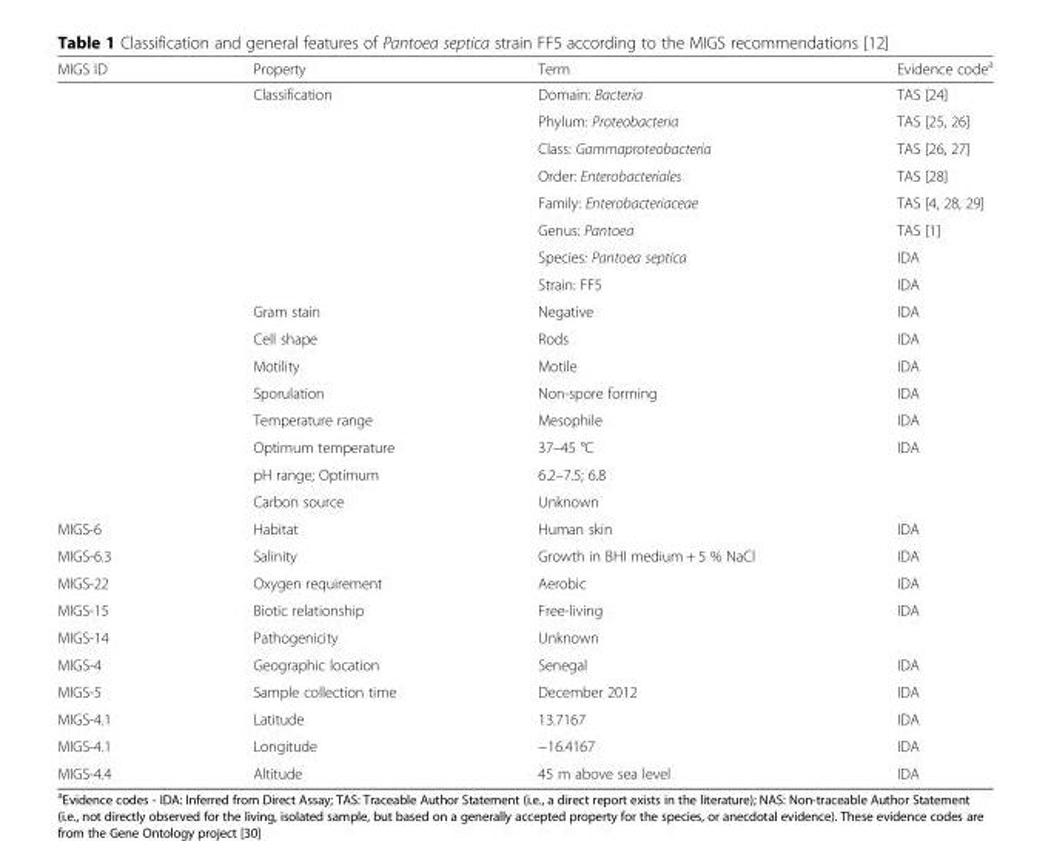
<table><thead><tr><td>MIGS ID</td><td>Property</td><td>Term</td><td>Evidence code<sup>a</sup></td></tr></thead><tbody><tr><td></td><td>Classification</td><td>Domain: Bacteria</td><td>TAS [24]</td></tr><tr><td></td><td></td><td>Phylum: Proteobacteria</td><td>TAS [25, 26]</td></tr><tr><td></td><td></td><td>Class: Gammaproteobacteria</td><td>TAS [26, 27]</td></tr><tr><td></td><td></td><td>Order: Enterobacteriales</td><td>TAS [28]</td></tr><tr><td></td><td></td><td>Family: Enterobacteriaceae</td><td>TAS [4, 28, 29]</td></tr><tr><td></td><td></td><td>Genus: Pantoea</td><td>TAS [1]</td></tr><tr><td></td><td></td><td>Species: Pantoea septica</td><td>IDA</td></tr><tr><td></td><td></td><td>Strain: FF5</td><td>IDA</td></tr><tr><td></td><td>Gram stain</td><td>Negative</td><td>IDA</td></tr><tr><td></td><td>Cell shape</td><td>Rods</td><td>IDA</td></tr><tr><td></td><td>Motility</td><td>Motile</td><td>IDA</td></tr><tr><td></td><td>Sporulation</td><td>Non-spore forming</td><td>IDA</td></tr><tr><td></td><td>Temperature range</td><td>Mesophile</td><td>IDA</td></tr><tr><td></td><td>Optimum temperature</td><td>37–45 °C</td><td>IDA</td></tr><tr><td></td><td>pH range; Optimum</td><td>6.2–7.5; 6.8</td><td></td></tr><tr><td></td><td>Carbon source</td><td>Unknown</td><td></td></tr><tr><td>MIGS-6</td><td>Habitat</td><td>Human skin</td><td>IDA</td></tr><tr><td>MIGS-6.3</td><td>Salinity</td><td>Growth in BHI medium + 5 % NaCl</td><td>IDA</td></tr><tr><td>MIGS-22</td><td>Oxygen requirement</td><td>Aerobic</td><td>IDA</td></tr><tr><td>MIGS-15</td><td>Biotic relationship</td><td>Free-living</td><td>IDA</td></tr><tr><td>MIGS-14</td><td>Pathogenicity</td><td>Unknown</td><td></td></tr><tr><td>MIGS-4</td><td>Geographic location</td><td>Senegal</td><td>IDA</td></tr><tr><td>MIGS-5</td><td>Sample collection time</td><td>December 2012</td><td>IDA</td></tr><tr><td>MIGS-4.1</td><td>Latitude</td><td>13.7167</td><td>IDA</td></tr><tr><td>MIGS-4.1</td><td>Longitude</td><td>−16.4167</td><td>IDA</td></tr><tr><td>MIGS-4.4</td><td>Altitude</td><td>45 m above sea level</td><td>IDA</td></tr></tbody></table>